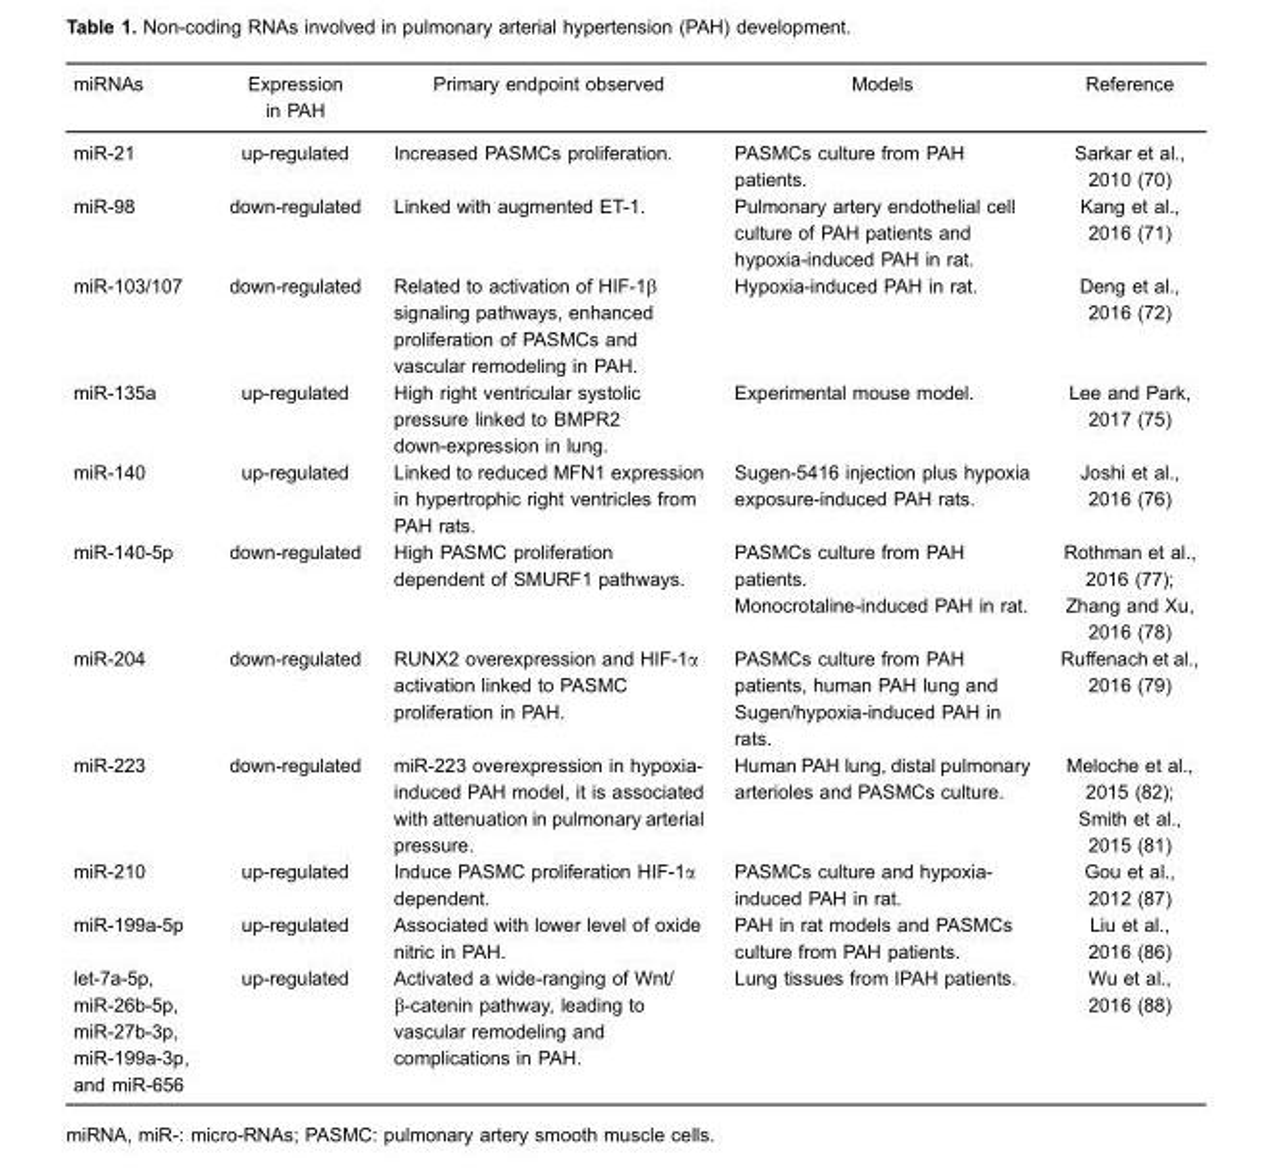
<table><thead><tr><td>miRNAs</td><td>Expression in PAH</td><td>Primary endpoint observed</td><td>Models</td><td>Reference</td></tr></thead><tbody><tr><td>miR-21</td><td>up-regulated</td><td>Increased PASMCs proliferation.</td><td>PASMCs culture from PAH patients.</td><td>Sarkar et al., 2010 (70)</td></tr><tr><td>miR-98</td><td>down-regulated</td><td>Linked with augmented ET-1.</td><td>Pulmonary artery endothelial cell culture of PAH patients and hypoxia-induced PAH in rat.</td><td>Kang et al., 2016 (71)</td></tr><tr><td>miR-103/107</td><td>down-regulated</td><td>Related to activation of HIF-1β signaling pathways, enhanced proliferation of PASMCs and vascular remodeling in PAH.</td><td>Hypoxia-induced PAH in rat.</td><td>Deng et al., 2016 (72)</td></tr><tr><td>miR-135a</td><td>up-regulated</td><td>High right ventricular systolic pressure linked to BMPR2 down-expression in lung.</td><td>Experimental mouse model.</td><td>Lee and Park, 2017 (75)</td></tr><tr><td>miR-140</td><td>up-regulated</td><td>Linked to reduced MFN1 expression in hypertrophic right ventricles from PAH rats.</td><td>Sugen-5416 injection plus hypoxia exposure-induced PAH rats.</td><td>Joshi et al., 2016 (76)</td></tr><tr><td>miR-140-5p</td><td>down-regulated</td><td>High PASMC proliferation dependent of SMURF1 pathways.</td><td>PASMCs culture from PAH patients. Monocrotaline-induced PAH in rat.</td><td>Rothman et al., 2016 (77); Zhang and Xu, 2016 (78)</td></tr><tr><td>miR-204</td><td>down-regulated</td><td>RUNX2 overexpression and HIF-1α activation linked to PASMC proliferation in PAH.</td><td>PASMCs culture from PAH patients, human PAH lung and Sugen/hypoxia-induced PAH in rats.</td><td>Ruffenach et al., 2016 (79)</td></tr><tr><td>miR-223</td><td>down-regulated</td><td>miR-223 overexpression in hypoxia- induced PAH model, it is associated with attenuation in pulmonary arterial pressure.</td><td>Human PAH lung, distal pulmonary arterioles and PASMCs culture.</td><td>Meloche et al., 2015 (82); Smith et al., 2015 (81)</td></tr><tr><td>miR-210</td><td>up-regulated</td><td>Induce PASMC proliferation HIF-1α dependent.</td><td>PASMCs culture and hypoxia- induced PAH in rat.</td><td>Gou et al., 2012 (87)</td></tr><tr><td>miR-199a-5p</td><td>up-regulated</td><td>Associated with lower level of oxide nitric in PAH.</td><td>PAH in rat models and PASMCs culture from PAH patients.</td><td>Liu et al., 2016 (86)</td></tr><tr><td>let-7a-5p, miR-26b-5p, miR-27b-3p, miR-199a-3p, and miR-656</td><td>up-regulated</td><td>Activated a wide-ranging of Wnt/ β-catenin pathway, leading to vascular remodeling and complications in PAH.</td><td>Lung tissues from IPAH patients.</td><td>Wu et al., 2016 (88)</td></tr></tbody></table>